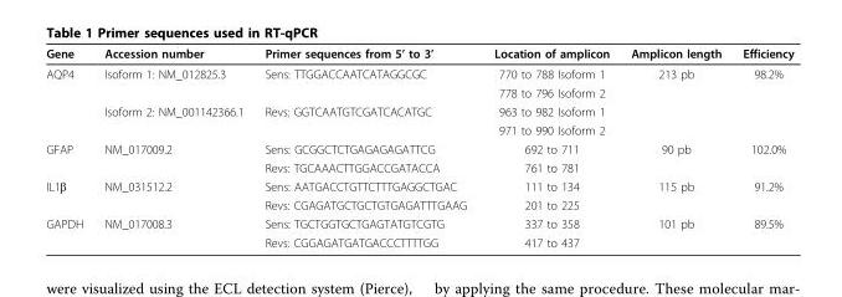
<table><thead><tr><td>Gene</td><td>Accession number</td><td>Primer sequences from 5’ to 3’</td><td>Location of amplicon</td><td>Amplicon length</td><td>Efficiency</td></tr></thead><tbody><tr><td rowspan="4">AQP4</td><td>Isoform 1: NM_012825.3</td><td>Sens: TTGGACCAATCATAGGCGC</td><td>770 to 788 Isoform 1</td><td>213 pb</td><td>98.2%</td></tr><tr><td></td><td></td><td>778 to 796 Isoform 2</td><td></td><td></td></tr><tr><td>Isoform 2: NM_001142366.1</td><td>Revs: GGTCAATGTCGATCACATGC</td><td>963 to 982 Isoform 1</td><td></td><td></td></tr><tr><td></td><td></td><td>971 to 990 Isoform 2</td><td></td><td></td></tr><tr><td rowspan="2">GFAP</td><td>NM_017009.2</td><td>Sens: GCGGCTCTGAGAGAGATTCG</td><td>692 to 711</td><td>90 pb</td><td>102.0%</td></tr><tr><td></td><td>Revs: TGCAAACTTGGACCGATACCA</td><td>761 to 781</td><td></td><td></td></tr><tr><td rowspan="2">IL1β</td><td>NM_031512.2</td><td>Sens: AATGACCTGTTCTTTGAGGCTGAC</td><td>111 to 134</td><td>115 pb</td><td>91.2%</td></tr><tr><td></td><td>Revs: CGAGATGCTGCTGTGAGATTTGAAG</td><td>201 to 225</td><td></td><td></td></tr><tr><td rowspan="2">GAPDH</td><td>NM_017008.3</td><td>Sens: TGCTGGTGCTGAGTATGTCGTG</td><td>337 to 358</td><td>101 pb</td><td>89.5%</td></tr><tr><td></td><td>Revs: CGGAGATGATGACCCTTTTGG</td><td>417 to 437</td><td></td><td></td></tr></tbody></table>